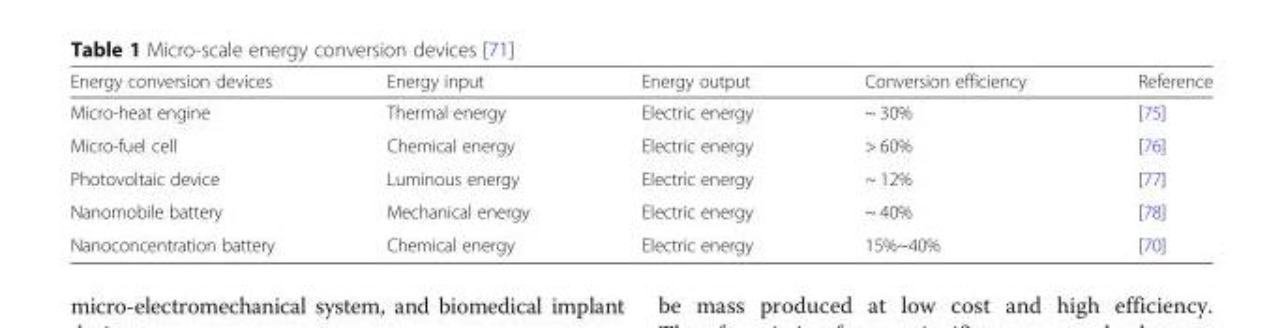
<table><thead><tr><td>Energy conversion devices</td><td>Energy input</td><td>Energy output</td><td>Conversion efficiency</td><td>Reference</td></tr></thead><tbody><tr><td>Micro-heat engine</td><td>Thermal energy</td><td>Electric energy</td><td>~ 30%</td><td>[75]</td></tr><tr><td>Micro-fuel cell</td><td>Chemical energy</td><td>Electric energy</td><td>&gt; 60%</td><td>[76]</td></tr><tr><td>Photovoltaic device</td><td>Luminous energy</td><td>Electric energy</td><td>~ 12%</td><td>[77]</td></tr><tr><td>Nanomobile battery</td><td>Mechanical energy</td><td>Electric energy</td><td>~ 40%</td><td>[78]</td></tr><tr><td>Nanoconcentration battery</td><td>Chemical energy</td><td>Electric energy</td><td>15%~40%</td><td>[70]</td></tr></tbody></table>